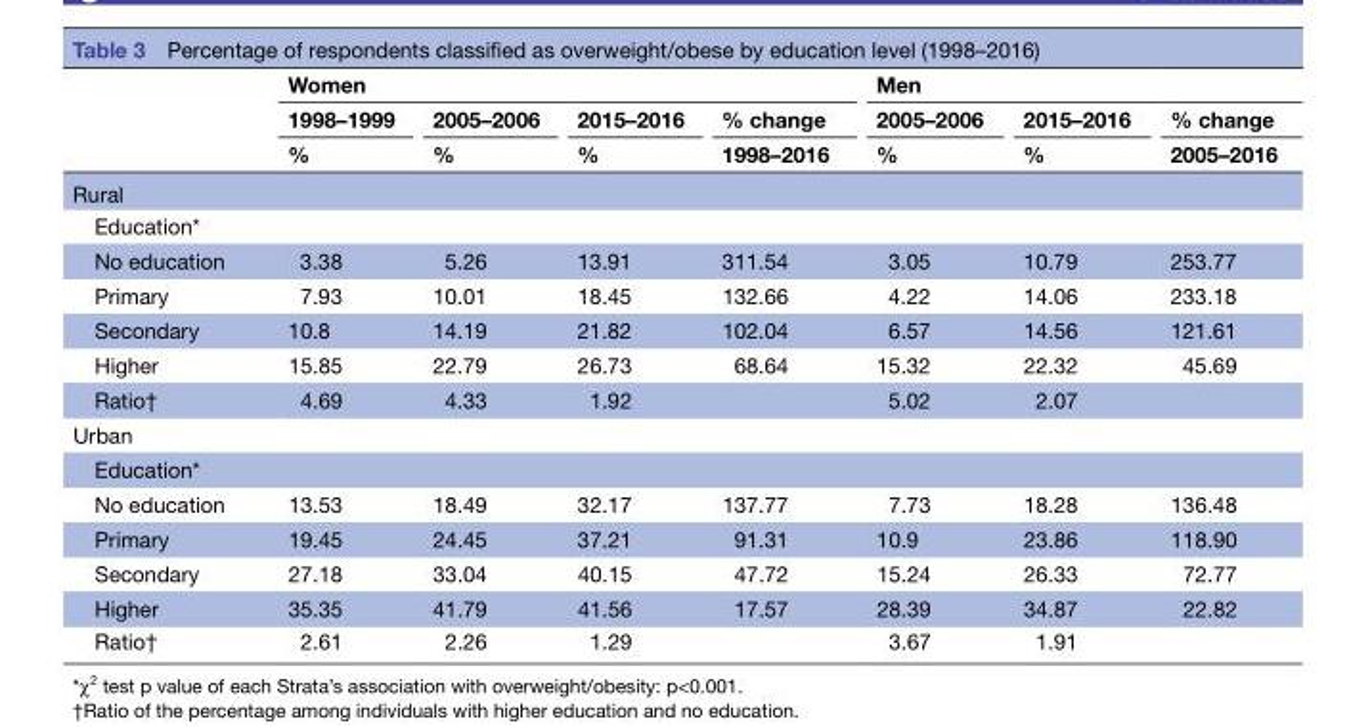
<table><thead><tr><td rowspan="3"></td><td colspan="4">Women</td><td colspan="3">Men</td></tr><tr><td rowspan="2">1998–1999 %</td><td rowspan="2">2005–2006 %</td><td rowspan="2">2015–2016 %</td><td rowspan="2">% change 1998–2016</td><td rowspan="2">2005–2006 %</td><td rowspan="2">2015–2016 %</td><td rowspan="2">% change 2005–2016</td></tr><tr></tr></thead><tbody><tr><td colspan="8">Rural</td></tr><tr><td colspan="8">Education*</td></tr><tr><td>No education</td><td>3.38</td><td>5.26</td><td>13.91</td><td>311.54</td><td>3.05</td><td>10.79</td><td>253.77</td></tr><tr><td>Primary</td><td>7.93</td><td>10.01</td><td>18.45</td><td>132.66</td><td>4.22</td><td>14.06</td><td>233.18</td></tr><tr><td>Secondary</td><td>10.8</td><td>14.19</td><td>21.82</td><td>102.04</td><td>6.57</td><td>14.56</td><td>121.61</td></tr><tr><td>Higher</td><td>15.85</td><td>22.79</td><td>26.73</td><td>68.64</td><td>15.32</td><td>22.32</td><td>45.69</td></tr><tr><td>Ratio†</td><td>4.69</td><td>4.33</td><td>1.92</td><td></td><td>5.02</td><td>2.07</td><td></td></tr><tr><td colspan="8">Urban</td></tr><tr><td colspan="8">Education*</td></tr><tr><td>No education</td><td>13.53</td><td>18.49</td><td>32.17</td><td>137.77</td><td>7.73</td><td>18.28</td><td>136.48</td></tr><tr><td>Primary</td><td>19.45</td><td>24.45</td><td>37.21</td><td>91.31</td><td>10.9</td><td>23.86</td><td>118.90</td></tr><tr><td>Secondary</td><td>27.18</td><td>33.04</td><td>40.15</td><td>47.72</td><td>15.24</td><td>26.33</td><td>72.77</td></tr><tr><td>Higher</td><td>35.35</td><td>41.79</td><td>41.56</td><td>17.57</td><td>28.39</td><td>34.87</td><td>22.82</td></tr><tr><td>Ratio†</td><td>2.61</td><td>2.26</td><td>1.29</td><td></td><td>3.67</td><td>1.91</td><td></td></tr></tbody></table>